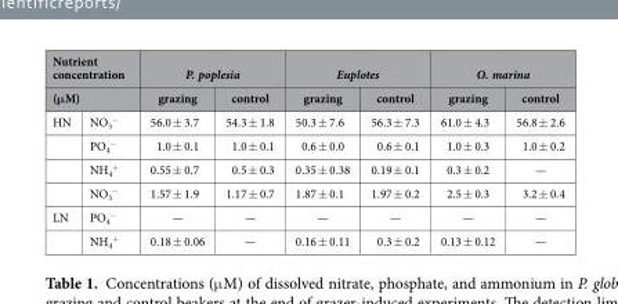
<table><thead><tr><td rowspan="2" colspan="2">Nutrient concentration (μM)</td><td colspan="2">P. poplesia</td><td colspan="2">Euplotes</td><td colspan="2">O. marina</td></tr><tr><td rowspan="2">grazing 56.0 ± 3.7</td><td rowspan="2">control 54.3 ± 1.8</td><td rowspan="2">grazing 50.3 ± 7.6</td><td rowspan="2">control 56.3 ± 7.3</td><td rowspan="2">grazing 61.0 ± 4.3</td><td rowspan="2">control 56.8 ± 2.6</td></tr><tr><td>HN</td><td>NO<sub>3</sub> <sup>−</sup></td></tr></thead><tbody><tr><td></td><td>PO<sub>4</sub> <sup>−</sup></td><td>1.0 ± 0.1</td><td>1.0 ± 0.1</td><td>0.6 ± 0.0</td><td>0.6 ± 0.1</td><td>1.0 ± 0.3</td><td>1.0 ± 0.2</td></tr><tr><td></td><td>NH<sub>4</sub> <sup>+</sup></td><td>0.55 ± 0.7</td><td>0.5 ± 0.3</td><td>0.35 ± 0.38</td><td>0.19 ± 0.1</td><td>0.3 ± 0.2</td><td>—</td></tr><tr><td></td><td>NO<sub>3</sub> <sup>−</sup></td><td>1.57 ± 1.9</td><td>1.17 ± 0.7</td><td>1.87 ± 0.1</td><td>1.97 ± 0.2</td><td>2.5 ± 0.3</td><td>3.2 ± 0.4</td></tr><tr><td rowspan="2">LN</td><td>PO<sub>4</sub> <sup>−</sup></td><td>—</td><td>—</td><td>—</td><td>—</td><td>—</td><td>—</td></tr><tr><td>NH<sub>4</sub> <sup>+</sup></td><td>0.18 ± 0.06</td><td>—</td><td>0.16 ± 0.11</td><td>0.3 ± 0.2</td><td>0.13 ± 0.12</td><td>—</td></tr></tbody></table>